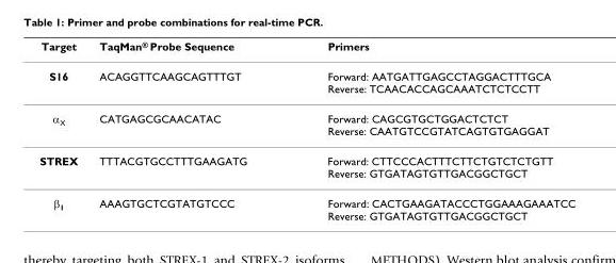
<table><thead><tr><td>Target</td><td>TaqMan<sup>®</sup> Probe Sequence</td><td>Primers</td></tr></thead><tbody><tr><td>S16</td><td>ACAGGTTCAAGCAGTTTGT</td><td>Forward: AATGATTGAGCCTAGGACTTTGCA Reverse: TCAACACCAGCAAATCTCTCCTT</td></tr><tr><td>α<sub>X</sub></td><td>CATGAGCGCAACATAC</td><td>Forward: CAGCGTGCTGGACTCTCT Reverse: CAATGTCCGTATCAGTGTGAGGAT</td></tr><tr><td>STREX</td><td>TTTACGTGCCTTTGAAGATG</td><td>Forward: CTTCCCACTTTCTTCTGTCTCTGTT Reverse: GTGATAGTGTTGACGGCTGCT</td></tr><tr><td>β<sub>1</sub></td><td>AAAGTGCTCGTATGTCCC</td><td>Forward: CACTGAAGATACCCTGGAAAGAAATCC Reverse: GTGATAGTGTTGACGGCTGCT</td></tr></tbody></table>